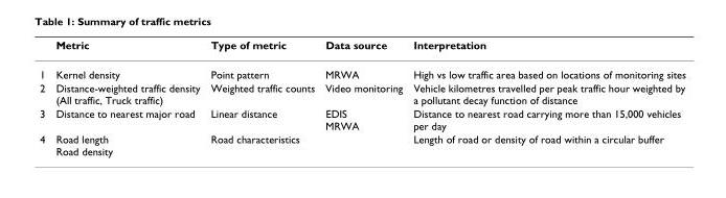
<table><thead><tr><td></td><td>Metric</td><td>Type of metric</td><td>Data source</td><td>Interpretation</td></tr></thead><tbody><tr><td>1</td><td>Kernel density</td><td>Point pattern</td><td>MRWA</td><td>High vs low traffic area based on locations of monitoring sites</td></tr><tr><td>2</td><td>Distance-weighted traffic density (All traffic, Truck traffic)</td><td>Weighted traffic counts</td><td>Video monitoring</td><td>Vehicle kilometres travelled per peak traffic hour weighted by a pollutant decay function of distance</td></tr><tr><td>3</td><td>Distance to nearest major road</td><td>Linear distance</td><td>EDIS MRWA</td><td>Distance to nearest road carrying more than 15,000 vehicles per day</td></tr><tr><td>4</td><td>Road length Road density</td><td>Road characteristics</td><td></td><td>Length of road or density of road within a circular buffer</td></tr></tbody></table>